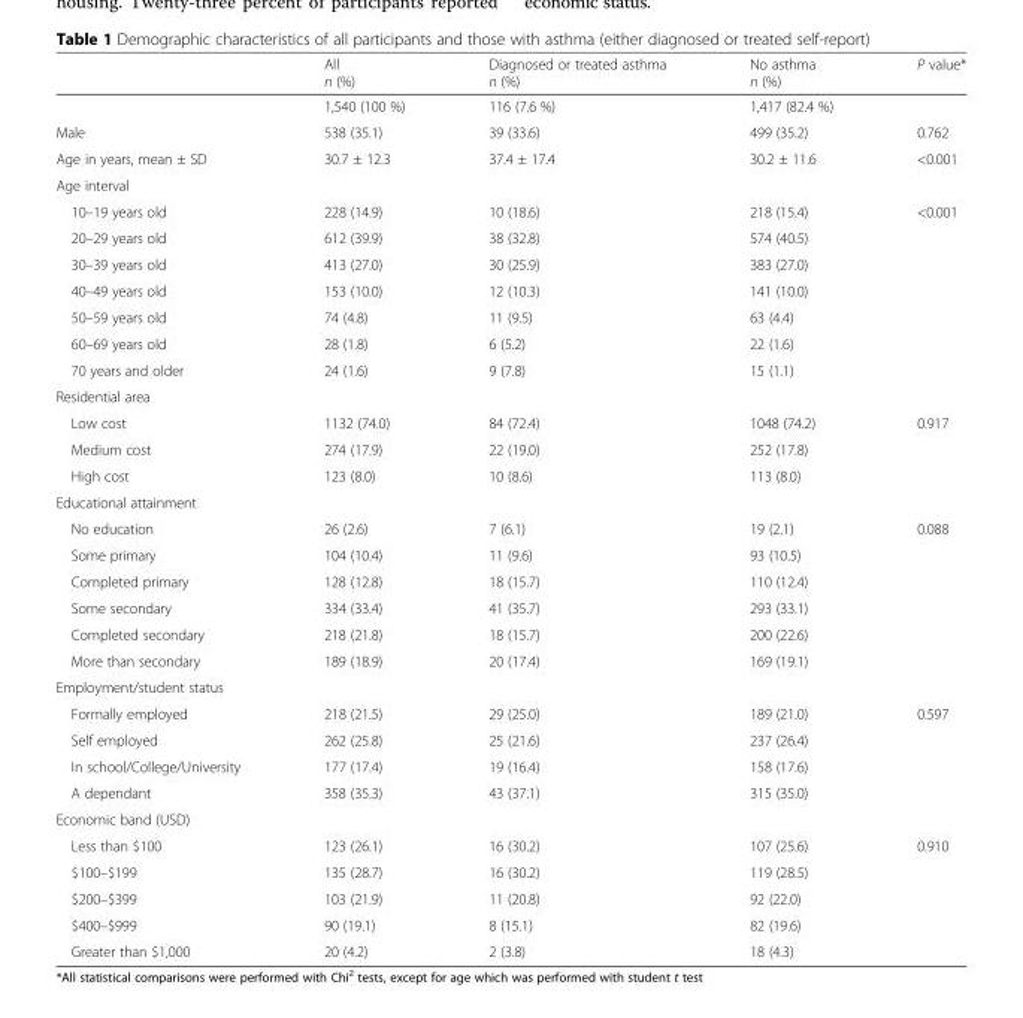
<table><thead><tr><td></td><td>All n (%)</td><td>Diagnosed or treated asthma n (%)</td><td>No asthma n (%)</td><td>P value*</td></tr></thead><tbody><tr><td></td><td>1,540 (100 %)</td><td>116 (7.6 %)</td><td>1,417 (82.4 %)</td><td></td></tr><tr><td>Male</td><td>538 (35.1)</td><td>39 (33.6)</td><td>499 (35.2)</td><td>0.762</td></tr><tr><td>Age in years, mean ± SD</td><td>30.7 ± 12.3</td><td>37.4 ± 17.4</td><td>30.2 ± 11.6</td><td>&lt;0.001</td></tr><tr><td colspan="5">Age interval</td></tr><tr><td>10–19 years old</td><td>228 (14.9)</td><td>10 (18.6)</td><td>218 (15.4)</td><td rowspan="7">&lt;0.001</td></tr><tr><td>20–29 years old</td><td>612 (39.9)</td><td>38 (32.8)</td><td>574 (40.5)</td></tr><tr><td>30–39 years old</td><td>413 (27.0)</td><td>30 (25.9)</td><td>383 (27.0)</td></tr><tr><td>40–49 years old</td><td>153 (10.0)</td><td>12 (10.3)</td><td>141 (10.0)</td></tr><tr><td>50–59 years old</td><td>74 (4.8)</td><td>11 (9.5)</td><td>63 (4.4)</td></tr><tr><td>60–69 years old</td><td>28 (1.8)</td><td>6 (5.2)</td><td>22 (1.6)</td></tr><tr><td>70 years and older</td><td>24 (1.6)</td><td>9 (7.8)</td><td>15 (1.1)</td></tr><tr><td colspan="5">Residential area</td></tr><tr><td>Low cost</td><td>1132 (74.0)</td><td>84 (72.4)</td><td>1048 (74.2)</td><td rowspan="3">0.917</td></tr><tr><td>Medium cost</td><td>274 (17.9)</td><td>22 (19.0)</td><td>252 (17.8)</td></tr><tr><td>High cost</td><td>123 (8.0)</td><td>10 (8.6)</td><td>113 (8.0)</td></tr><tr><td colspan="5">Educational attainment</td></tr><tr><td>No education</td><td>26 (2.6)</td><td>7 (6.1)</td><td>19 (2.1)</td><td rowspan="6">0.088</td></tr><tr><td>Some primary</td><td>104 (10.4)</td><td>11 (9.6)</td><td>93 (10.5)</td></tr><tr><td>Completed primary</td><td>128 (12.8)</td><td>18 (15.7)</td><td>110 (12.4)</td></tr><tr><td>Some secondary</td><td>334 (33.4)</td><td>41 (35.7)</td><td>293 (33.1)</td></tr><tr><td>Completed secondary</td><td>218 (21.8)</td><td>18 (15.7)</td><td>200 (22.6)</td></tr><tr><td>More than secondary</td><td>189 (18.9)</td><td>20 (17.4)</td><td>169 (19.1)</td></tr><tr><td colspan="5">Employment/student status</td></tr><tr><td>Formally employed</td><td>218 (21.5)</td><td>29 (25.0)</td><td>189 (21.0)</td><td rowspan="4">0.597</td></tr><tr><td>Self employed</td><td>262 (25.8)</td><td>25 (21.6)</td><td>237 (26.4)</td></tr><tr><td>In school/College/University</td><td>177 (17.4)</td><td>19 (16.4)</td><td>158 (17.6)</td></tr><tr><td>A dependant</td><td>358 (35.3)</td><td>43 (37.1)</td><td>315 (35.0)</td></tr><tr><td colspan="5">Economic band (USD)</td></tr><tr><td>Less than $100</td><td>123 (26.1)</td><td>16 (30.2)</td><td>107 (25.6)</td><td rowspan="5">0.910</td></tr><tr><td>$100–$199</td><td>135 (28.7)</td><td>16 (30.2)</td><td>119 (28.5)</td></tr><tr><td>$200–$399</td><td>103 (21.9)</td><td>11 (20.8)</td><td>92 (22.0)</td></tr><tr><td>$400–$999</td><td>90 (19.1)</td><td>8 (15.1)</td><td>82 (19.6)</td></tr><tr><td>Greater than $1,000</td><td>20 (4.2)</td><td>2 (3.8)</td><td>18 (4.3)</td></tr></tbody></table>